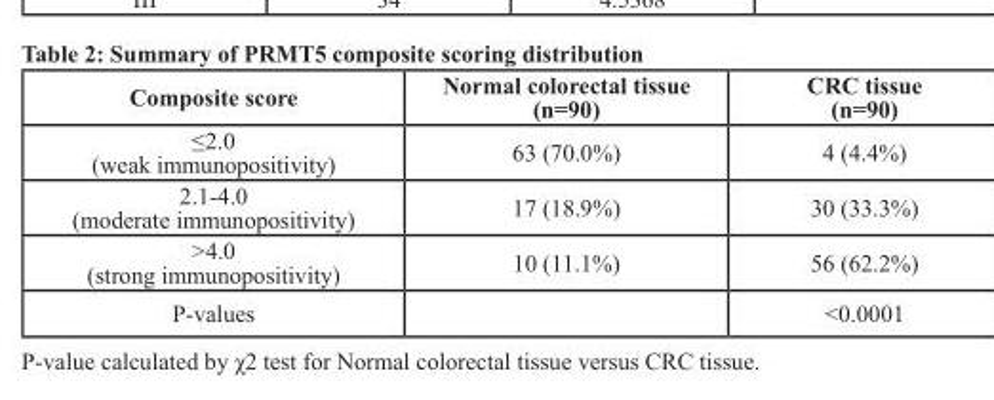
<table><thead><tr><td>Composite score</td><td>Normal colorectal tissue (n=90)</td><td>CRC tissue (n=90)</td></tr></thead><tbody><tr><td>≤2.0 (weak immunopositivity)</td><td>63 (70.0%)</td><td>4 (4.4%)</td></tr><tr><td>2.1-4.0 (moderate immunopositivity)</td><td>17 (18.9%)</td><td>30 (33.3%)</td></tr><tr><td>&gt;4.0 (strong immunopositivity)</td><td>10 (11.1%)</td><td>56 (62.2%)</td></tr><tr><td>P-values</td><td></td><td>&lt;0.0001</td></tr></tbody></table>